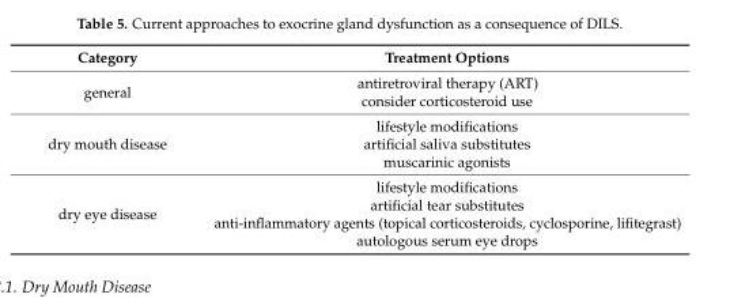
<table><thead><tr><td>Category</td><td>Treatment Options</td></tr></thead><tbody><tr><td>general</td><td>antiretroviral therapy (ART) consider corticosteroid use</td></tr><tr><td>dry mouth disease</td><td>lifestyle modifications artificial saliva substitutes muscarinic agonists</td></tr><tr><td>dry eye disease</td><td>lifestyle modifications artificial tear substitutes anti-inflammatory agents (topical corticosteroids, cyclosporine, lifitegrast) autologous serum eye drops</td></tr></tbody></table>